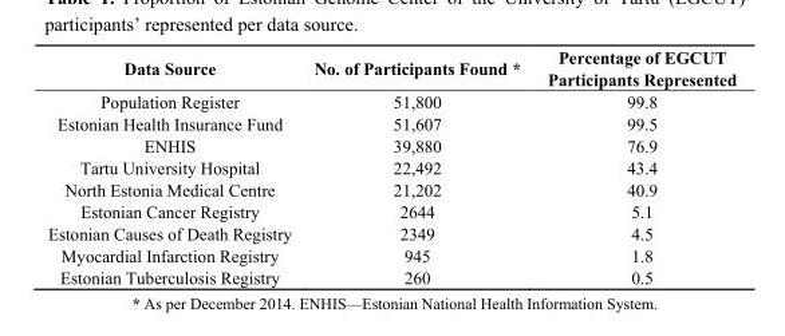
<table><thead><tr><td>Data Source</td><td>No. of Participants Found *</td><td>Percentage of EGCUT Participants Represented</td></tr></thead><tbody><tr><td>Population Register</td><td>51,800</td><td>99.8</td></tr><tr><td>Estonian Health Insurance Fund</td><td>51,607</td><td>99.5</td></tr><tr><td>ENHIS</td><td>39,880</td><td>76.9</td></tr><tr><td>Tartu University Hospital</td><td>22,492</td><td>43.4</td></tr><tr><td>North Estonia Medical Centre</td><td>21,202</td><td>40.9</td></tr><tr><td>Estonian Cancer Registry</td><td>2644</td><td>5.1</td></tr><tr><td>Estonian Causes of Death Registry</td><td>2349</td><td>4.5</td></tr><tr><td>Myocardial Infarction Registry</td><td>945</td><td>1.8</td></tr><tr><td>Estonian Tuberculosis Registry</td><td>260</td><td>0.5</td></tr></tbody></table>